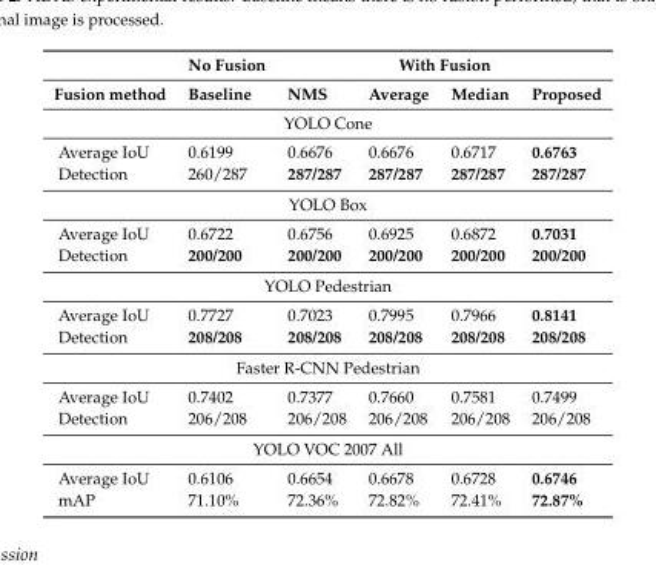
<table><thead><tr><td rowspan="2">Fusion method</td><td rowspan="2">No Fusion Baseline</td><td colspan="4">With Fusion</td></tr><tr><td>NMS</td><td>Average</td><td>Median</td><td>Proposed</td></tr></thead><tbody><tr><td colspan="6">YOLO Cone</td></tr><tr><td>Average IoU</td><td>0.6199</td><td>0.6676</td><td>0.6676</td><td>0.6717</td><td>0.6763</td></tr><tr><td>Detection</td><td>260/287</td><td>287/287</td><td>287/287</td><td>287/287</td><td>287/287</td></tr><tr><td colspan="6">YOLO Box</td></tr><tr><td>Average IoU</td><td>0.6722</td><td>0.6756</td><td>0.6925</td><td>0.6872</td><td>0.7031</td></tr><tr><td>Detection</td><td>200/200</td><td>200/200</td><td>200/200</td><td>200/200</td><td>200/200</td></tr><tr><td colspan="6">YOLO Pedestrian</td></tr><tr><td>Average IoU</td><td>0.7727</td><td>0.7023</td><td>0.7995</td><td>0.7966</td><td>0.8141</td></tr><tr><td>Detection</td><td>208/208</td><td>208/208</td><td>208/208</td><td>208/208</td><td>208/208</td></tr><tr><td colspan="6">Faster R-CNN Pedestrian</td></tr><tr><td>Average IoU</td><td>0.7402</td><td>0.7377</td><td>0.7660</td><td>0.7581</td><td>0.7499</td></tr><tr><td>Detection</td><td>206/208</td><td>206/208</td><td>206/208</td><td>206/208</td><td>206/208</td></tr><tr><td colspan="6">YOLO VOC 2007 All</td></tr><tr><td>Average IoU</td><td>0.6106</td><td>0.6654</td><td>0.6678</td><td>0.6728</td><td>0.6746</td></tr><tr><td>mAP</td><td>71.10%</td><td>72.36%</td><td>72.82%</td><td>72.41%</td><td>72.87%</td></tr></tbody></table>